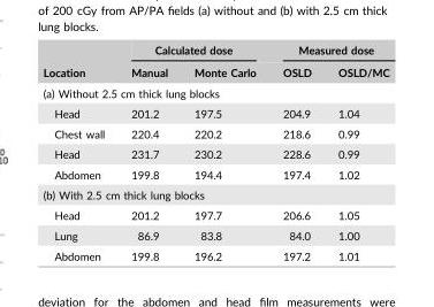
<table><thead><tr><td rowspan="2">Location</td><td colspan="2">Calculated dose</td><td colspan="2">Measured dose</td></tr><tr><td>Manual</td><td>Monte Carlo</td><td>OSLD</td><td>OSLD/MC</td></tr></thead><tbody><tr><td colspan="5">(a) Without 2.5 cm thick lung blocks</td></tr><tr><td>Head</td><td>201.2</td><td>197.5</td><td>204.9</td><td>1.04</td></tr><tr><td>Chest wall</td><td>220.4</td><td>220.2</td><td>218.6</td><td>0.99</td></tr><tr><td>Head</td><td>231.7</td><td>230.2</td><td>228.6</td><td>0.99</td></tr><tr><td>Abdomen</td><td>199.8</td><td>194.4</td><td>197.4</td><td>1.02</td></tr><tr><td colspan="5">(b) With 2.5 cm thick lung blocks</td></tr><tr><td>Head</td><td>201.2</td><td>197.7</td><td>206.6</td><td>1.05</td></tr><tr><td>Lung</td><td>86.9</td><td>83.8</td><td>84.0</td><td>1.00</td></tr><tr><td>Abdomen</td><td>199.8</td><td>196.2</td><td>197.2</td><td>1.01</td></tr></tbody></table>